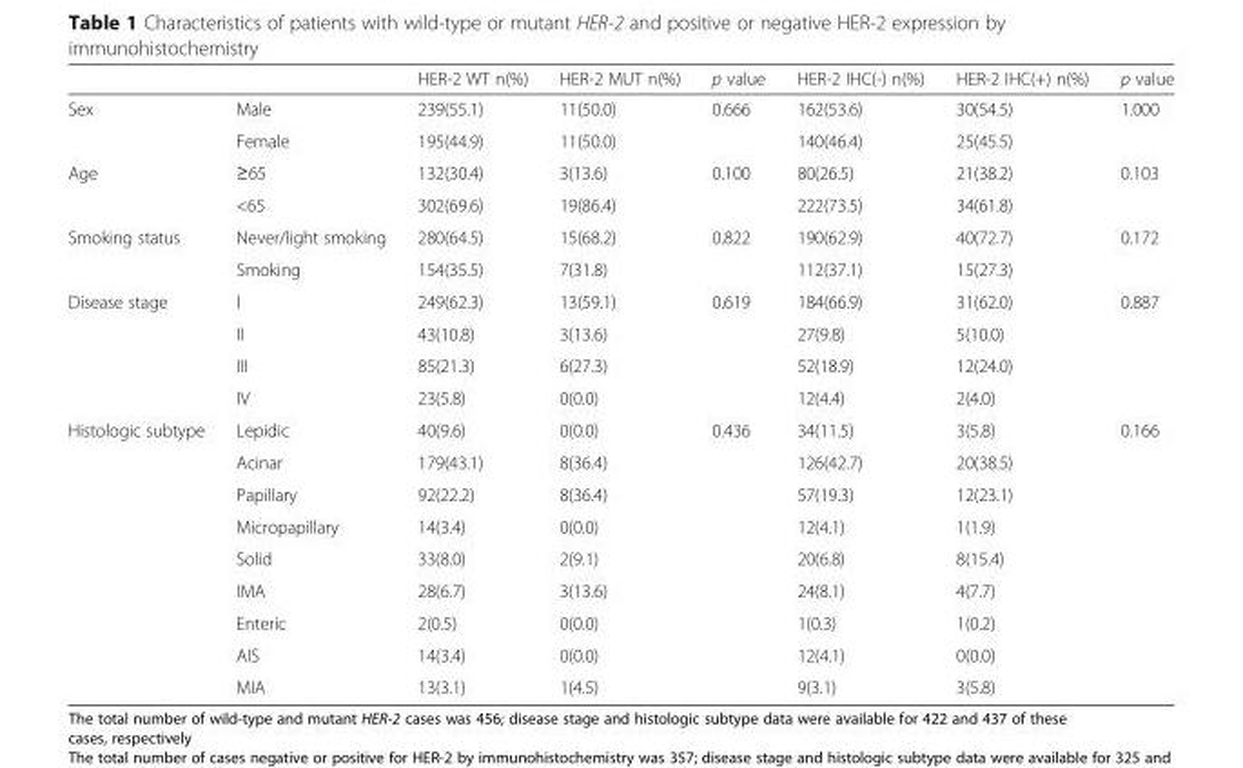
<table><thead><tr><td></td><td></td><td>HER-2 WT n(%)</td><td>HER-2 MUT n(%)</td><td>p value</td><td>HER-2 IHC(-) n(%)</td><td>HER-2 IHC(+) n(%)</td><td>p value</td></tr></thead><tbody><tr><td rowspan="2">Sex</td><td>Male</td><td>239(55.1)</td><td>11(50.0)</td><td>0.666</td><td>162(53.6)</td><td>30(54.5)</td><td>1.000</td></tr><tr><td>Female</td><td>195(44.9)</td><td>11(50.0)</td><td></td><td>140(46.4)</td><td>25(45.5)</td><td></td></tr><tr><td rowspan="2">Age</td><td>≥65</td><td>132(30.4)</td><td>3(13.6)</td><td>0.100</td><td>80(26.5)</td><td>21(38.2)</td><td>0.103</td></tr><tr><td>&lt;65</td><td>302(69.6)</td><td>19(86.4)</td><td></td><td>222(73.5)</td><td>34(61.8)</td><td></td></tr><tr><td rowspan="2">Smoking status</td><td>Never/light smoking</td><td>280(64.5)</td><td>15(68.2)</td><td>0.822</td><td>190(62.9)</td><td>40(72.7)</td><td>0.172</td></tr><tr><td>Smoking</td><td>154(35.5)</td><td>7(31.8)</td><td></td><td>112(37.1)</td><td>15(27.3)</td><td></td></tr><tr><td rowspan="4">Disease stage</td><td>I</td><td>249(62.3)</td><td>13(59.1)</td><td>0.619</td><td>184(66.9)</td><td>31(62.0)</td><td>0.887</td></tr><tr><td>II</td><td>43(10.8)</td><td>3(13.6)</td><td></td><td>27(9.8)</td><td>5(10.0)</td><td></td></tr><tr><td>III</td><td>85(21.3)</td><td>6(27.3)</td><td></td><td>52(18.9)</td><td>12(24.0)</td><td></td></tr><tr><td>IV</td><td>23(5.8)</td><td>0(0.0)</td><td></td><td>12(4.4)</td><td>2(4.0)</td><td></td></tr><tr><td rowspan="9">Histologic subtype</td><td>Lepidic</td><td>40(9.6)</td><td>0(0.0)</td><td>0.436</td><td>34(11.5)</td><td>3(5.8)</td><td>0.166</td></tr><tr><td>Acinar</td><td>179(43.1)</td><td>8(36.4)</td><td></td><td>126(42.7)</td><td>20(38.5)</td><td></td></tr><tr><td>Papillary</td><td>92(22.2)</td><td>8(36.4)</td><td></td><td>57(19.3)</td><td>12(23.1)</td><td></td></tr><tr><td>Micropapillary</td><td>14(3.4)</td><td>0(0.0)</td><td></td><td>12(4.1)</td><td>1(1.9)</td><td></td></tr><tr><td>Solid</td><td>33(8.0)</td><td>2(9.1)</td><td></td><td>20(6.8)</td><td>8(15.4)</td><td></td></tr><tr><td>IMA</td><td>28(6.7)</td><td>3(13.6)</td><td></td><td>24(8.1)</td><td>4(7.7)</td><td></td></tr><tr><td>Enteric</td><td>2(0.5)</td><td>0(0.0)</td><td></td><td>1(0.3)</td><td>1(0.2)</td><td></td></tr><tr><td>AIS</td><td>14(3.4)</td><td>0(0.0)</td><td></td><td>12(4.1)</td><td>0(0.0)</td><td></td></tr><tr><td>MIA</td><td>13(3.1)</td><td>1(4.5)</td><td></td><td>9(3.1)</td><td>3(5.8)</td><td></td></tr></tbody></table>